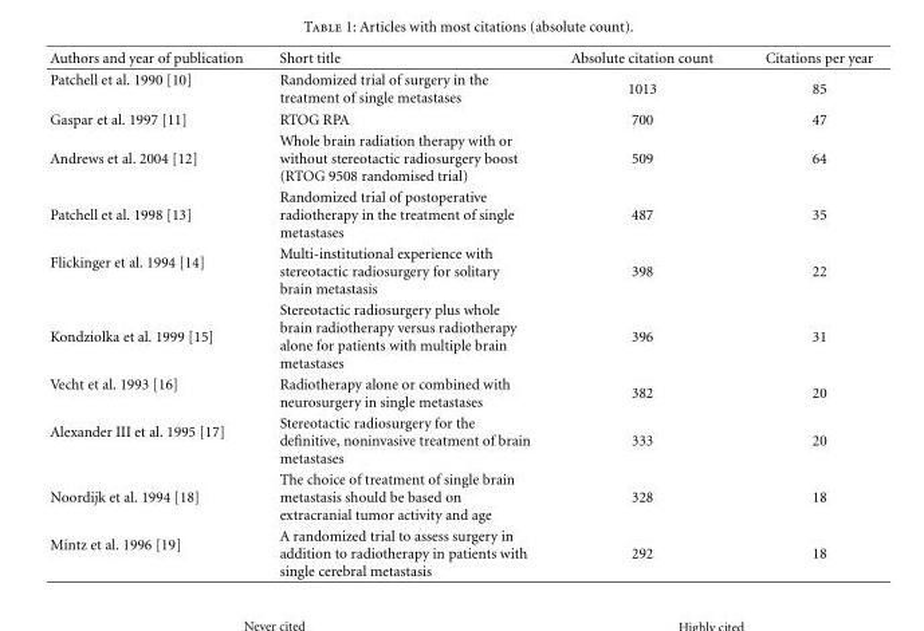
<table><thead><tr><td>Authors and year of publication</td><td>Short title</td><td>Absolute citation count</td><td>Citations per year</td></tr></thead><tbody><tr><td>Patchell et al. 1990 [10]</td><td>Randomized trial of surgery in the treatment of single metastases</td><td>1013</td><td>85</td></tr><tr><td>Gaspar et al. 1997 [11]</td><td>RTOG RPA</td><td>700</td><td>47</td></tr><tr><td>Andrews et al. 2004 [12]</td><td>Whole brain radiation therapy with or without stereotactic radiosurgery boost (RTOG 9508 randomised trial)</td><td>509</td><td>64</td></tr><tr><td>Patchell et al. 1998 [13]</td><td>Randomized trial of postoperative radiotherapy in the treatment of single metastases</td><td>487</td><td>35</td></tr><tr><td>Flickinger et al. 1994 [14]</td><td>Multi-institutional experience with stereotactic radiosurgery for solitary brain metastasis</td><td>398</td><td>22</td></tr><tr><td>Kondziolka et al. 1999 [15]</td><td>Stereotactic radiosurgery plus whole brain radiotherapy versus radiotherapy alone for patients with multiple brain metastases</td><td>396</td><td>31</td></tr><tr><td>Vecht et al. 1993 [16]</td><td>Radiotherapy alone or combined with neurosurgery in single metastases</td><td>382</td><td>20</td></tr><tr><td>Alexander III et al. 1995 [17]</td><td>Stereotactic radiosurgery for the definitive, noninvasive treatment of brain metastases</td><td>333</td><td>20</td></tr><tr><td>Noordijk et al. 1994 [18]</td><td>The choice of treatment of single brain metastasis should be based on extracranial tumor activity and age</td><td>328</td><td>18</td></tr><tr><td>Mintz et al. 1996 [19]</td><td>A randomized trial to assess surgery in addition to radiotherapy in patients with single cerebral metastasis</td><td>292</td><td>18</td></tr></tbody></table>